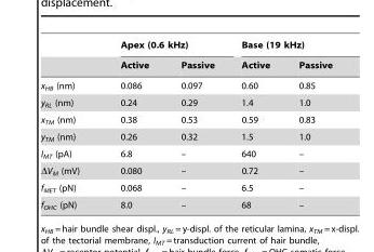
<table><thead><tr><td rowspan="2"></td><td colspan="2">Apex (0.6 kHz)</td><td colspan="2">Base (19 kHz)</td></tr><tr><td>Active</td><td>Passive</td><td>Active</td><td>Passive</td></tr></thead><tbody><tr><td>x<sub>HB</sub> (nm)</td><td>0.086</td><td>0.097</td><td>0.60</td><td>0.85</td></tr><tr><td>y<sub>RL</sub> (nm)</td><td>0.24</td><td>0.29</td><td>1.4</td><td>1.0</td></tr><tr><td>x<sub>TM</sub> (nm)</td><td>0.38</td><td>0.53</td><td>0.59</td><td>0.83</td></tr><tr><td>y<sub>TM</sub> (nm)</td><td>0.26</td><td>0.32</td><td>1.5</td><td>1.0</td></tr><tr><td>I<sub>MT</sub> (pA)</td><td>6.8</td><td>–</td><td>640</td><td>–</td></tr><tr><td>ΔV<sub>M</sub> (mV)</td><td>0.080</td><td>–</td><td>0.72</td><td>–</td></tr><tr><td>f<sub>MET</sub> (pN)</td><td>0.068</td><td>–</td><td>6.5</td><td>–</td></tr><tr><td>f<sub>OHC</sub> (pN)</td><td>8.0</td><td>–</td><td>68</td><td>–</td></tr></tbody></table>